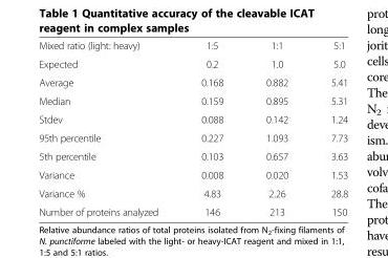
<table><tbody><tr><td>Mixed ratio (light: heavy)</td><td>1:5</td><td>1:1</td><td>5:1</td></tr><tr><td>Expected</td><td>0.2</td><td>1.0</td><td>5.0</td></tr><tr><td>Average</td><td>0.168</td><td>0.882</td><td>5.41</td></tr><tr><td>Median</td><td>0.159</td><td>0.895</td><td>5.31</td></tr><tr><td>Stdev</td><td>0.088</td><td>0.142</td><td>1.24</td></tr><tr><td>95th percentile</td><td>0.227</td><td>1.093</td><td>7.73</td></tr><tr><td>5th percentile</td><td>0.103</td><td>0.657</td><td>3.63</td></tr><tr><td>Variance</td><td>0.008</td><td>0.020</td><td>1.53</td></tr><tr><td>Variance %</td><td>4.83</td><td>2.26</td><td>28.8</td></tr><tr><td>Number of proteins analyzed</td><td>146</td><td>213</td><td>150</td></tr></tbody></table>